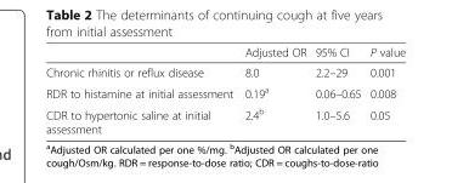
<table><thead><tr><td></td><td>Adjusted OR</td><td>95% CI</td><td>P value</td></tr></thead><tbody><tr><td>Chronic rhinitis or reflux disease</td><td>8.0</td><td>2.2–29</td><td>0.001</td></tr><tr><td>RDR to histamine at initial assessment</td><td>0.19<sup>a</sup></td><td>0.06–0.65</td><td>0.008</td></tr><tr><td>CDR to hypertonic saline at initial assessment</td><td>2.4<sup>b</sup></td><td>1.0–5.6</td><td>0.05</td></tr></tbody></table>